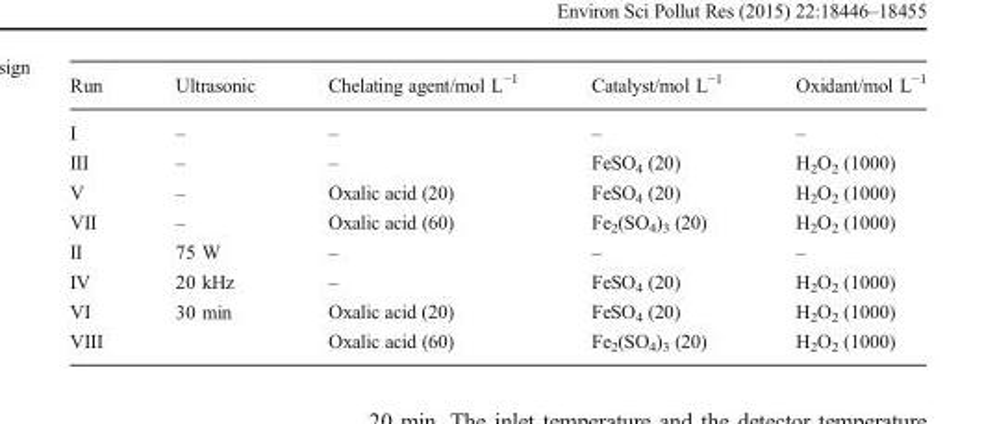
<table><thead><tr><td>Run</td><td>Ultrasonic</td><td>Chelating agent/mol L<sup>−1</sup></td><td>Catalyst/mol L<sup>−1</sup></td><td>Oxidant/mol L<sup>−1</sup></td></tr></thead><tbody><tr><td>I</td><td>–</td><td>–</td><td>–</td><td>–</td></tr><tr><td>III</td><td>–</td><td>–</td><td>FeSO<sub>4</sub> (20)</td><td>H<sub>2</sub>O<sub>2</sub> (1000)</td></tr><tr><td>V</td><td>–</td><td>Oxalic acid (20)</td><td>FeSO<sub>4</sub> (20)</td><td>H<sub>2</sub>O<sub>2</sub> (1000)</td></tr><tr><td>VII</td><td>–</td><td>Oxalic acid (60)</td><td>Fe<sub>2</sub>(SO<sub>4</sub>)<sub>3</sub> (20)</td><td>H<sub>2</sub>O<sub>2</sub> (1000)</td></tr><tr><td>II</td><td rowspan="4">75 W 20 kHz 30 min</td><td>–</td><td>–</td><td>–</td></tr><tr><td>IV</td><td>–</td><td>FeSO<sub>4</sub> (20)</td><td>H<sub>2</sub>O<sub>2</sub> (1000)</td></tr><tr><td>VI</td><td>Oxalic acid (20)</td><td>FeSO<sub>4</sub> (20)</td><td>H<sub>2</sub>O<sub>2</sub> (1000)</td></tr><tr><td>VIII</td><td>Oxalic acid (60)</td><td>Fe<sub>2</sub>(SO<sub>4</sub>)<sub>3</sub> (20)</td><td>H<sub>2</sub>O<sub>2</sub> (1000)</td></tr></tbody></table>